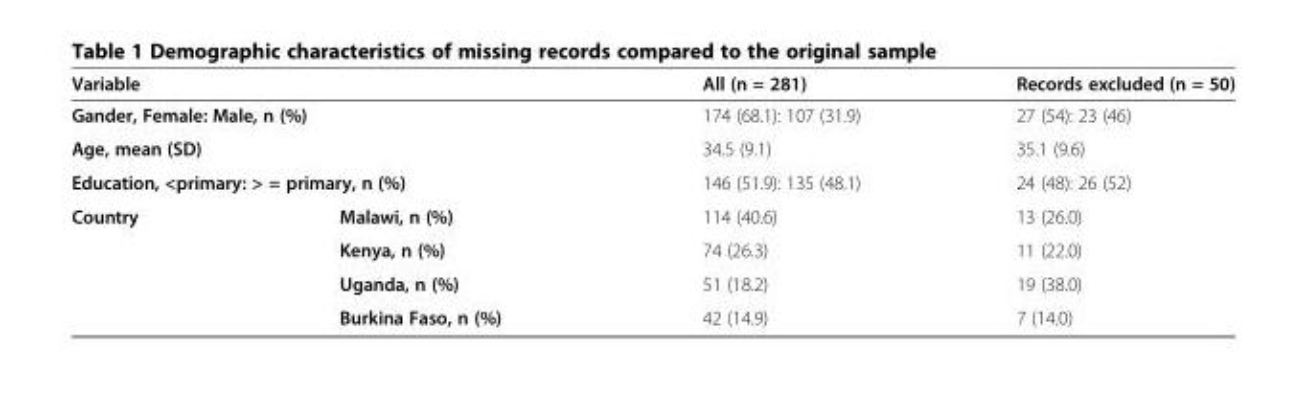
<table><thead><tr><td colspan="2">Variable</td><td>All (n = 281)</td><td>Records excluded (n = 50)</td></tr></thead><tbody><tr><td colspan="2">Gander, Female: Male, n (%)</td><td>174 (68.1): 107 (31.9)</td><td>27 (54): 23 (46)</td></tr><tr><td colspan="2">Age, mean (SD)</td><td>34.5 (9.1)</td><td>35.1 (9.6)</td></tr><tr><td colspan="2">Education, &lt;primary: &gt; = primary, n (%)</td><td>146 (51.9): 135 (48.1)</td><td>24 (48): 26 (52)</td></tr><tr><td rowspan="4">Country</td><td>Malawi, n (%)</td><td>114 (40.6)</td><td>13 (26.0)</td></tr><tr><td>Kenya, n (%)</td><td>74 (26.3)</td><td>11 (22.0)</td></tr><tr><td>Uganda, n (%)</td><td>51 (18.2)</td><td>19 (38.0)</td></tr><tr><td>Burkina Faso, n (%)</td><td>42 (14.9)</td><td>7 (14.0)</td></tr></tbody></table>